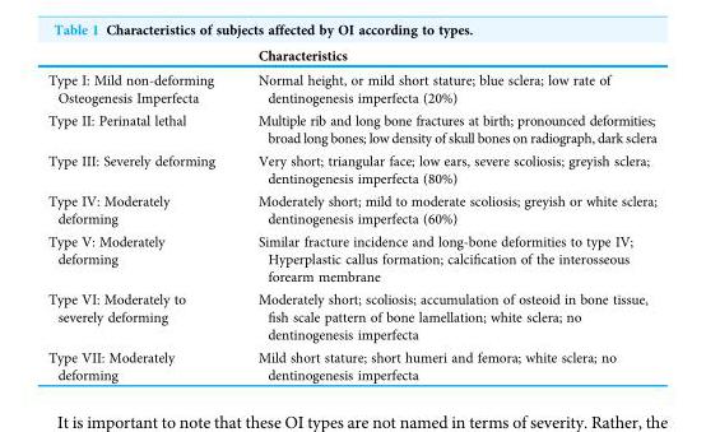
<table><thead><tr><td></td><td>Characteristics</td></tr></thead><tbody><tr><td>Type I: Mild non-deforming Osteogenesis Imperfecta</td><td>Normal height, or mild short stature; blue sclera; low rate of dentinogenesis imperfecta (20%)</td></tr><tr><td>Type II: Perinatal lethal</td><td>Multiple rib and long bone fractures at birth; pronounced deformities; broad long bones; low density of skull bones on radiograph, dark sclera</td></tr><tr><td>Type III: Severely deforming</td><td>Very short; triangular face; low ears, severe scoliosis; greyish sclera; dentinogenesis imperfecta (80%)</td></tr><tr><td>Type IV: Moderately deforming</td><td>Moderately short; mild to moderate scoliosis; greyish or white sclera; dentinogenesis imperfecta (60%)</td></tr><tr><td>Type V: Moderately deforming</td><td>Similar fracture incidence and long-bone deformities to type IV; Hyperplastic callus formation; calcification of the interosseous forearm membrane</td></tr><tr><td>Type VI: Moderately to severely deforming</td><td>Moderately short; scoliosis; accumulation of osteoid in bone tissue, fish scale pattern of bone lamellation; white sclera; no dentinogenesis imperfecta</td></tr><tr><td>Type VII: Moderately deforming</td><td>Mild short stature; short humeri and femora; white sclera; no dentinogenesis imperfecta</td></tr></tbody></table>